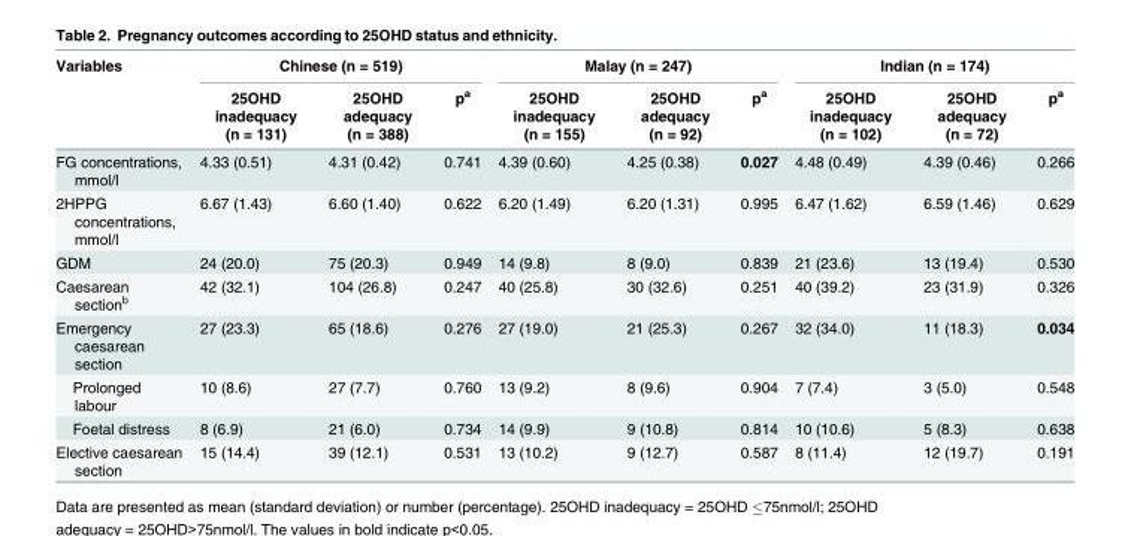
<table><thead><tr><td rowspan="2">Variables</td><td colspan="3">Chinese (n = 519)</td><td colspan="3">Malay (n = 247)</td><td colspan="3">Indian (n = 174)</td></tr><tr><td>25OHD inadequacy (n = 131)</td><td>25OHD adequacy (n = 388)</td><td>p<sup>a</sup></td><td>25OHD inadequacy (n = 155)</td><td>25OHD adequacy (n = 92)</td><td>p<sup>a</sup></td><td>25OHD inadequacy (n = 102)</td><td>25OHD adequacy (n = 72)</td><td>p<sup>a</sup></td></tr></thead><tbody><tr><td>FG concentrations, mmol/l</td><td>4.33 (0.51)</td><td>4.31 (0.42)</td><td>0.741</td><td>4.39 (0.60)</td><td>4.25 (0.38)</td><td>0.027</td><td>4.48 (0.49)</td><td>4.39 (0.46)</td><td>0.266</td></tr><tr><td>2HPPG concentrations, mmol/l</td><td>6.67 (1.43)</td><td>6.60 (1.40)</td><td>0.622</td><td>6.20 (1.49)</td><td>6.20 (1.31)</td><td>0.995</td><td>6.47 (1.62)</td><td>6.59 (1.46)</td><td>0.629</td></tr><tr><td>GDM</td><td>24 (20.0)</td><td>75 (20.3)</td><td>0.949</td><td>14 (9.8)</td><td>8 (9.0)</td><td>0.839</td><td>21 (23.6)</td><td>13 (19.4)</td><td>0.530</td></tr><tr><td>Caesarean section<sup>b</sup></td><td>42 (32.1)</td><td>104 (26.8)</td><td>0.247</td><td>40 (25.8)</td><td>30 (32.6)</td><td>0.251</td><td>40 (39.2)</td><td>23 (31.9)</td><td>0.326</td></tr><tr><td>Emergency caesarean section</td><td>27 (23.3)</td><td>65 (18.6)</td><td>0.276</td><td>27 (19.0)</td><td>21 (25.3)</td><td>0.267</td><td>32 (34.0)</td><td>11 (18.3)</td><td>0.034</td></tr><tr><td>Prolonged labour</td><td>10 (8.6)</td><td>27 (7.7)</td><td>0.760</td><td>13 (9.2)</td><td>8 (9.6)</td><td>0.904</td><td>7 (7.4)</td><td>3 (5.0)</td><td>0.548</td></tr><tr><td>Foetal distress</td><td>8 (6.9)</td><td>21 (6.0)</td><td>0.734</td><td>14 (9.9)</td><td>9 (10.8)</td><td>0.814</td><td>10 (10.6)</td><td>5 (8.3)</td><td>0.638</td></tr><tr><td>Elective caesarean section</td><td>15 (14.4)</td><td>39 (12.1)</td><td>0.531</td><td>13 (10.2)</td><td>9 (12.7)</td><td>0.587</td><td>8 (11.4)</td><td>12 (19.7)</td><td>0.191</td></tr></tbody></table>